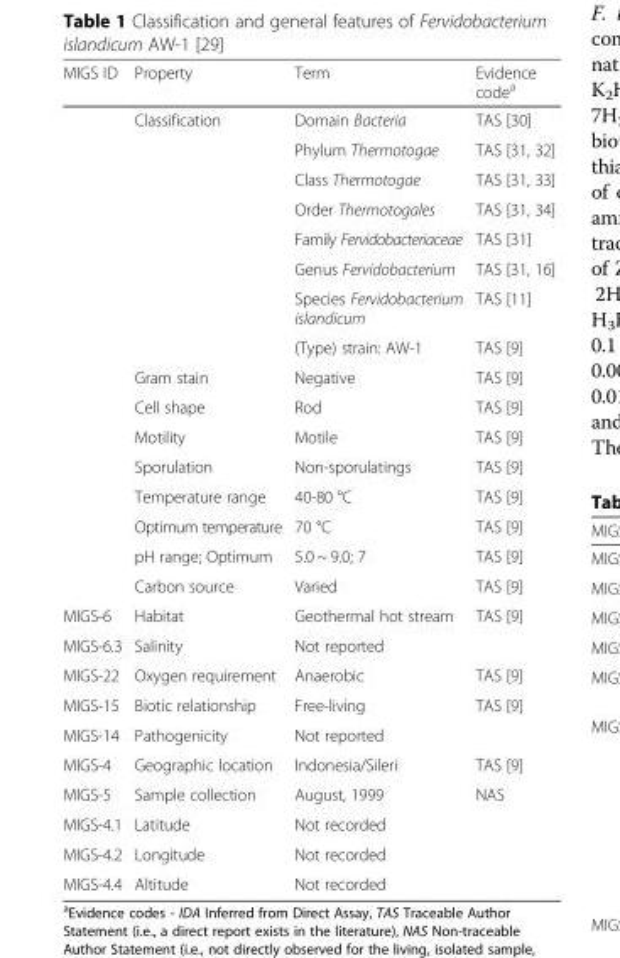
<table><thead><tr><td>MIGS ID</td><td>Property</td><td>Term</td><td>Evidence code<sup>a</sup></td></tr></thead><tbody><tr><td></td><td>Classification</td><td>Domain Bacteria</td><td>TAS [30]</td></tr><tr><td></td><td></td><td>Phylum Thermotogae</td><td>TAS [31, 32]</td></tr><tr><td></td><td></td><td>Class Thermotogae</td><td>TAS [31, 33]</td></tr><tr><td></td><td></td><td>Order Thermotogales</td><td>TAS [31, 34]</td></tr><tr><td></td><td></td><td>Family Fervidobacteriaceae</td><td>TAS [31]</td></tr><tr><td></td><td></td><td>Genus Fervidobacterium</td><td>TAS [31, 16]</td></tr><tr><td></td><td></td><td>Species Fervidobacterium islandicum</td><td>TAS [11]</td></tr><tr><td></td><td></td><td>(Type) strain: AW-1</td><td>TAS [9]</td></tr><tr><td></td><td>Gram stain</td><td>Negative</td><td>TAS [9]</td></tr><tr><td></td><td>Cell shape</td><td>Rod</td><td>TAS [9]</td></tr><tr><td></td><td>Motility</td><td>Motile</td><td>TAS [9]</td></tr><tr><td></td><td>Sporulation</td><td>Non-sporulatings</td><td>TAS [9]</td></tr><tr><td></td><td>Temperature range</td><td>40-80 °C</td><td>TAS [9]</td></tr><tr><td></td><td>Optimum temperature</td><td>70 °C</td><td>TAS [9]</td></tr><tr><td></td><td>pH range; Optimum</td><td>5.0 ~ 9.0; 7</td><td>TAS [9]</td></tr><tr><td></td><td>Carbon source</td><td>Varied</td><td>TAS [9]</td></tr><tr><td>MIGS-6</td><td>Habitat</td><td>Geothermal hot stream</td><td>TAS [9]</td></tr><tr><td>MIGS-6.3</td><td>Salinity</td><td>Not reported</td><td></td></tr><tr><td>MIGS-22</td><td>Oxygen requirement</td><td>Anaerobic</td><td>TAS [9]</td></tr><tr><td>MIGS-15</td><td>Biotic relationship</td><td>Free-living</td><td>TAS [9]</td></tr><tr><td>MIGS-14</td><td>Pathogenicity</td><td>Not reported</td><td></td></tr><tr><td>MIGS-4</td><td>Geographic location</td><td>Indonesia/Sileri</td><td>TAS [9]</td></tr><tr><td>MIGS-5</td><td>Sample collection</td><td>August, 1999</td><td>NAS</td></tr><tr><td>MIGS-4.1</td><td>Latitude</td><td>Not recorded</td><td></td></tr><tr><td>MIGS-4.2</td><td>Longitude</td><td>Not recorded</td><td></td></tr><tr><td>MIGS-4.4</td><td>Altitude</td><td>Not recorded</td><td></td></tr></tbody></table>